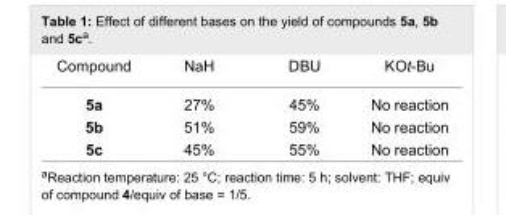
<table><tbody><tr><td>Compound</td><td>NaH</td><td>DBU</td><td>KOt-Bu</td></tr><tr><td>5a</td><td>27%</td><td>45%</td><td>No reaction</td></tr><tr><td>5b</td><td>51%</td><td>59%</td><td>No reaction</td></tr><tr><td>5c</td><td>45%</td><td>55%</td><td>No reaction</td></tr></tbody></table>